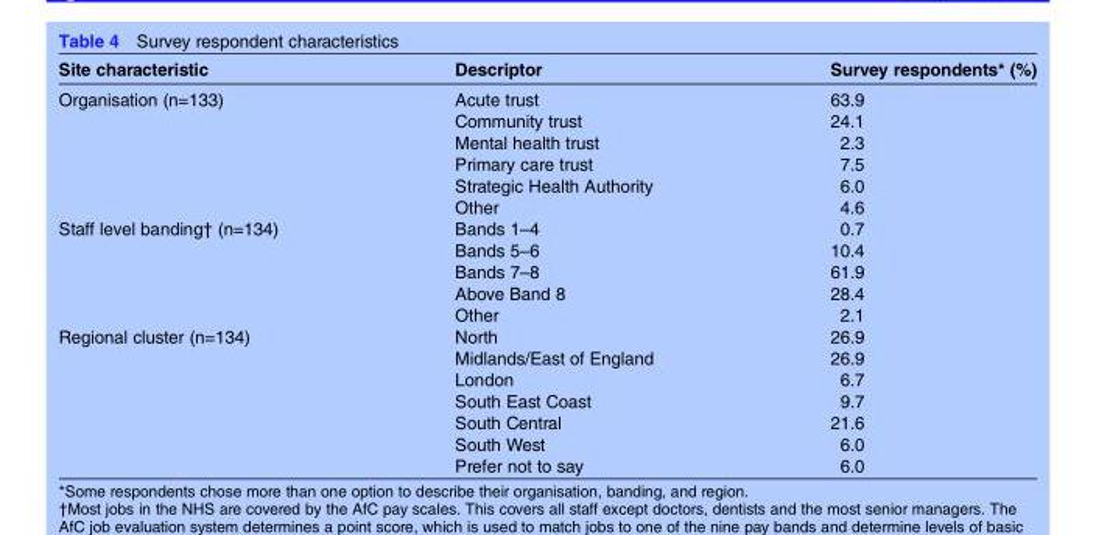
<table><thead><tr><td>Site characteristic</td><td>Descriptor</td><td>Survey respondents* (%)</td></tr></thead><tbody><tr><td rowspan="6">Organisation (n=133)</td><td>Acute trust</td><td>63.9</td></tr><tr><td>Community trust</td><td>24.1</td></tr><tr><td>Mental health trust</td><td>2.3</td></tr><tr><td>Primary care trust</td><td>7.5</td></tr><tr><td>Strategic Health Authority</td><td>6.0</td></tr><tr><td>Other</td><td>4.6</td></tr><tr><td rowspan="5">Staff level banding† (n=134)</td><td>Bands 1–4</td><td>0.7</td></tr><tr><td>Bands 5–6</td><td>10.4</td></tr><tr><td>Bands 7–8</td><td>61.9</td></tr><tr><td>Above Band 8</td><td>28.4</td></tr><tr><td>Other</td><td>2.1</td></tr><tr><td rowspan="7">Regional cluster (n=134)</td><td>North</td><td>26.9</td></tr><tr><td>Midlands/East of England</td><td>26.9</td></tr><tr><td>London</td><td>6.7</td></tr><tr><td>South East Coast</td><td>9.7</td></tr><tr><td>South Central</td><td>21.6</td></tr><tr><td>South West</td><td>6.0</td></tr><tr><td>Prefer not to say</td><td>6.0</td></tr></tbody></table>